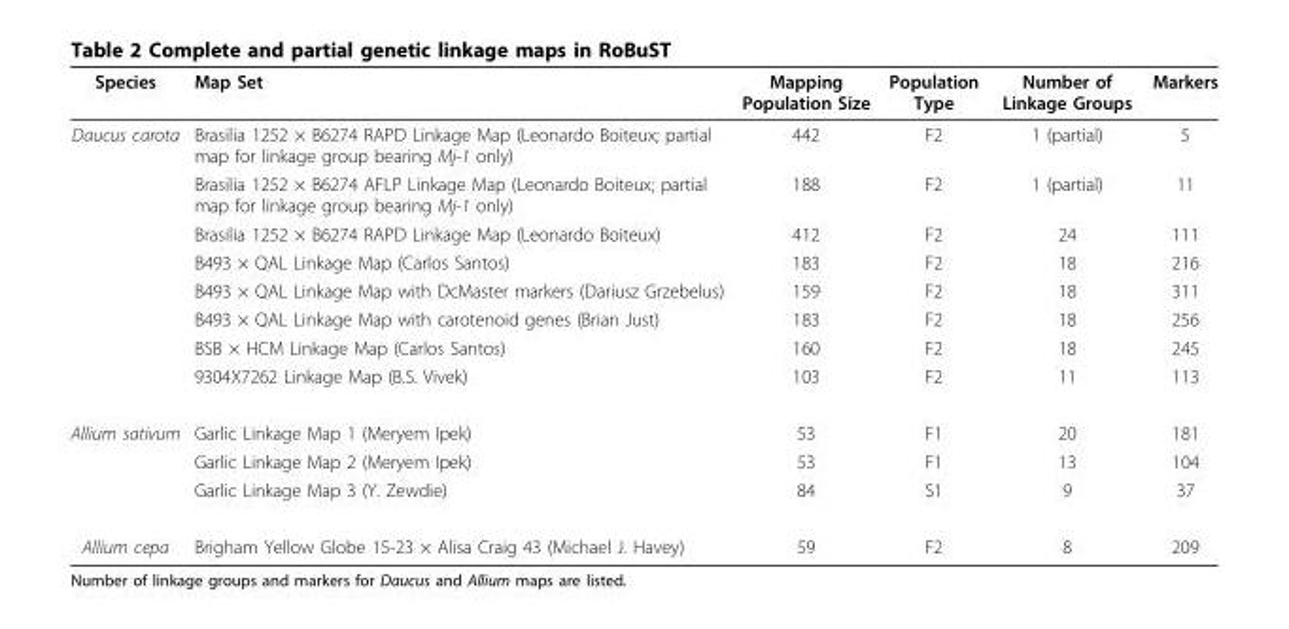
<table><thead><tr><td>Species</td><td>Map Set</td><td>Mapping Population Size</td><td>Population Type</td><td>Number of Linkage Groups</td><td>Markers</td></tr></thead><tbody><tr><td rowspan="8">Daucus carota</td><td>Brasilia 1252 × B6274 RAPD Linkage Map (Leonardo Boiteux; partial map for linkage group bearing Mj-1 only)</td><td>442</td><td>F2</td><td>1 (partial)</td><td>5</td></tr><tr><td>Brasilia 1252 × B6274 AFLP Linkage Map (Leonardo Boiteux; partial map for linkage group bearing Mj-1 only)</td><td>188</td><td>F2</td><td>1 (partial)</td><td>11</td></tr><tr><td>Brasilia 1252 × B6274 RAPD Linkage Map (Leonardo Boiteux)</td><td>412</td><td>F2</td><td>24</td><td>111</td></tr><tr><td>B493 × QAL Linkage Map (Carlos Santos)</td><td>183</td><td>F2</td><td>18</td><td>216</td></tr><tr><td>B493 × QAL Linkage Map with DcMaster markers (Dariusz Grzebelus)</td><td>159</td><td>F2</td><td>18</td><td>311</td></tr><tr><td>B493 × QAL Linkage Map with carotenoid genes (Brian Just)</td><td>183</td><td>F2</td><td>18</td><td>256</td></tr><tr><td>BSB × HCM Linkage Map (Carlos Santos)</td><td>160</td><td>F2</td><td>18</td><td>245</td></tr><tr><td>9304X7262 Linkage Map (B.S. Vivek)</td><td>103</td><td>F2</td><td>11</td><td>113</td></tr><tr><td rowspan="3">Allium sativum</td><td>Garlic Linkage Map 1 (Meryem Ipek)</td><td>53</td><td>F1</td><td>20</td><td>181</td></tr><tr><td>Garlic Linkage Map 2 (Meryem Ipek)</td><td>53</td><td>F1</td><td>13</td><td>104</td></tr><tr><td>Garlic Linkage Map 3 (Y. Zewdie)</td><td>84</td><td>S1</td><td>9</td><td>37</td></tr><tr><td>Allium cepa</td><td>Brigham Yellow Globe 15-23 × Alisa Craig 43 (Michael J. Havey)</td><td>59</td><td>F2</td><td>8</td><td>209</td></tr></tbody></table>